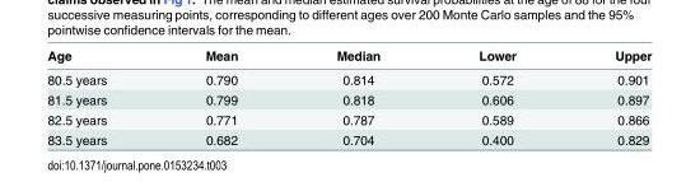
<table><thead><tr><td>Age</td><td>Mean</td><td>Median</td><td>Lower</td><td>Upper</td></tr></thead><tbody><tr><td>80.5 years</td><td>0.790</td><td>0.814</td><td>0.572</td><td>0.901</td></tr><tr><td>81.5 years</td><td>0.799</td><td>0.818</td><td>0.606</td><td>0.897</td></tr><tr><td>82.5 years</td><td>0.771</td><td>0.787</td><td>0.589</td><td>0.866</td></tr><tr><td>83.5 years</td><td>0.682</td><td>0.704</td><td>0.400</td><td>0.829</td></tr></tbody></table>